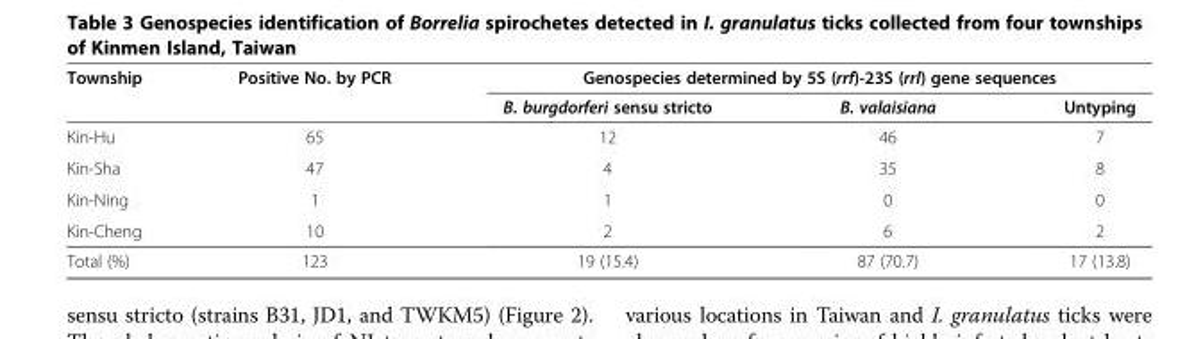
<table><thead><tr><td rowspan="2">Township</td><td rowspan="2">Positive No. by PCR</td><td colspan="3">Genospecies determined by 5S (rrf)-23S (rrl) gene sequences</td></tr><tr><td>B. burgdorferi sensu stricto</td><td>B. valaisiana</td><td>Untyping</td></tr></thead><tbody><tr><td>Kin-Hu</td><td>65</td><td>12</td><td>46</td><td>7</td></tr><tr><td>Kin-Sha</td><td>47</td><td>4</td><td>35</td><td>8</td></tr><tr><td>Kin-Ning</td><td>1</td><td>1</td><td>0</td><td>0</td></tr><tr><td>Kin-Cheng</td><td>10</td><td>2</td><td>6</td><td>2</td></tr><tr><td>Total (%)</td><td>123</td><td>19 (15.4)</td><td>87 (70.7)</td><td>17 (13.8)</td></tr></tbody></table>